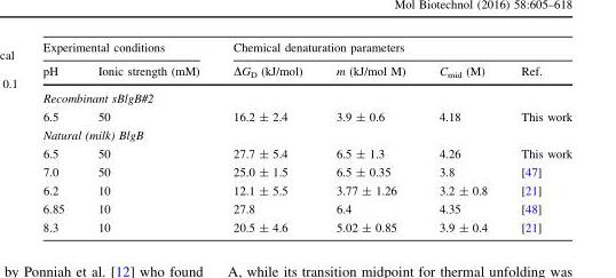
<table><thead><tr><td colspan="2">Experimental conditions</td><td colspan="4">Chemical denaturation parameters</td></tr><tr><td>pH</td><td>Ionic strength (mM)</td><td>ΔG<sub>D</sub> (kJ/mol)</td><td>m (kJ/mol M)</td><td>C<sub>mid</sub> (M)</td><td>Ref.</td></tr></thead><tbody><tr><td colspan="6">Recombinant sBlgB#2</td></tr><tr><td>6.5</td><td>50</td><td>16.2 ± 2.4</td><td>3.9 ± 0.6</td><td>4.18</td><td>This work</td></tr><tr><td colspan="6">Natural (milk) BlgB</td></tr><tr><td>6.5</td><td>50</td><td>27.7 ± 5.4</td><td>6.5 ± 1.3</td><td>4.26</td><td>This work</td></tr><tr><td>7.0</td><td>50</td><td>25.0 ± 1.5</td><td>6.5 ± 0.35</td><td>3.8</td><td>[47]</td></tr><tr><td>6.2</td><td>10</td><td>12.1 ± 5.5</td><td>3.77 ± 1.26</td><td>3.2 ± 0.8</td><td>[21]</td></tr><tr><td>6.85</td><td>10</td><td>27.8</td><td>6.4</td><td>4.35</td><td>[48]</td></tr><tr><td>8.3</td><td>10</td><td>20.5 ± 4.6</td><td>5.02 ± 0.85</td><td>3.9 ± 0.4</td><td>[21]</td></tr></tbody></table>